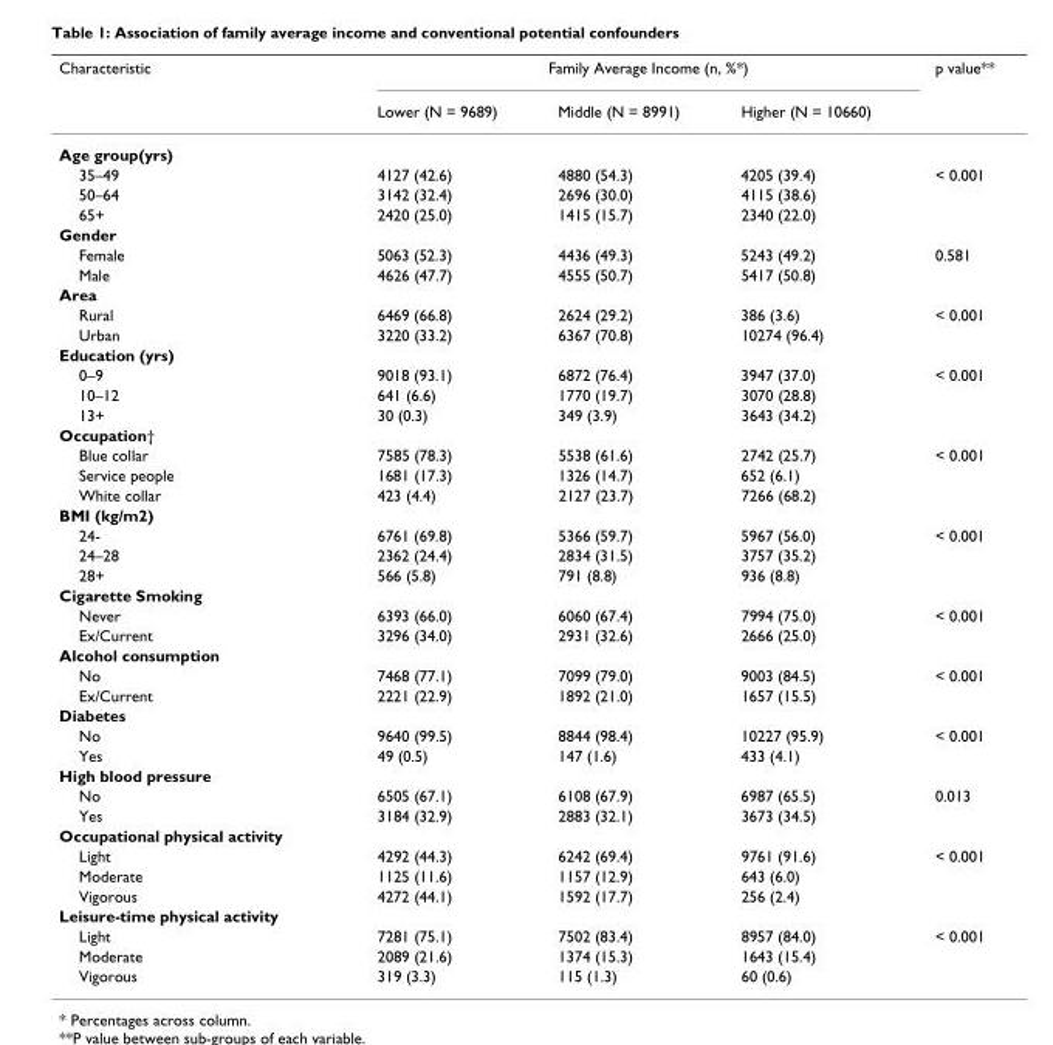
<table><thead><tr><td rowspan="2">Characteristic</td><td colspan="3">Family Average Income (n, %*)</td><td rowspan="2">p value**</td></tr><tr><td>Lower (N = 9689)</td><td>Middle (N = 8991)</td><td>Higher (N = 10660)</td></tr></thead><tbody><tr><td colspan="5">Age group(yrs)</td></tr><tr><td>35–49</td><td>4127 (42.6)</td><td>4880 (54.3)</td><td>4205 (39.4)</td><td>&lt; 0.001</td></tr><tr><td>50–64</td><td>3142 (32.4)</td><td>2696 (30.0)</td><td>4115 (38.6)</td><td></td></tr><tr><td>65+</td><td>2420 (25.0)</td><td>1415 (15.7)</td><td>2340 (22.0)</td><td></td></tr><tr><td colspan="5">Gender</td></tr><tr><td>Female</td><td>5063 (52.3)</td><td>4436 (49.3)</td><td>5243 (49.2)</td><td>0.581</td></tr><tr><td>Male</td><td>4626 (47.7)</td><td>4555 (50.7)</td><td>5417 (50.8)</td><td></td></tr><tr><td colspan="5">Area</td></tr><tr><td>Rural</td><td>6469 (66.8)</td><td>2624 (29.2)</td><td>386 (3.6)</td><td>&lt; 0.001</td></tr><tr><td>Urban</td><td>3220 (33.2)</td><td>6367 (70.8)</td><td>10274 (96.4)</td><td></td></tr><tr><td colspan="5">Education (yrs)</td></tr><tr><td>0–9</td><td>9018 (93.1)</td><td>6872 (76.4)</td><td>3947 (37.0)</td><td>&lt; 0.001</td></tr><tr><td>10–12</td><td>641 (6.6)</td><td>1770 (19.7)</td><td>3070 (28.8)</td><td></td></tr><tr><td>13+</td><td>30 (0.3)</td><td>349 (3.9)</td><td>3643 (34.2)</td><td></td></tr><tr><td colspan="5">Occupation†</td></tr><tr><td>Blue collar</td><td>7585 (78.3)</td><td>5538 (61.6)</td><td>2742 (25.7)</td><td>&lt; 0.001</td></tr><tr><td>Service people</td><td>1681 (17.3)</td><td>1326 (14.7)</td><td>652 (6.1)</td><td></td></tr><tr><td>White collar</td><td>423 (4.4)</td><td>2127 (23.7)</td><td>7266 (68.2)</td><td></td></tr><tr><td colspan="5">BMI (kg/m2)</td></tr><tr><td>24-</td><td>6761 (69.8)</td><td>5366 (59.7)</td><td>5967 (56.0)</td><td>&lt; 0.001</td></tr><tr><td>24–28</td><td>2362 (24.4)</td><td>2834 (31.5)</td><td>3757 (35.2)</td><td></td></tr><tr><td>28+</td><td>566 (5.8)</td><td>791 (8.8)</td><td>936 (8.8)</td><td></td></tr><tr><td colspan="5">Cigarette Smoking</td></tr><tr><td>Never</td><td>6393 (66.0)</td><td>6060 (67.4)</td><td>7994 (75.0)</td><td>&lt; 0.001</td></tr><tr><td>Ex/Current</td><td>3296 (34.0)</td><td>2931 (32.6)</td><td>2666 (25.0)</td><td></td></tr><tr><td colspan="5">Alcohol consumption</td></tr><tr><td>No</td><td>7468 (77.1)</td><td>7099 (79.0)</td><td>9003 (84.5)</td><td>&lt; 0.001</td></tr><tr><td>Ex/Current</td><td>2221 (22.9)</td><td>1892 (21.0)</td><td>1657 (15.5)</td><td></td></tr><tr><td colspan="5">Diabetes</td></tr><tr><td>No</td><td>9640 (99.5)</td><td>8844 (98.4)</td><td>10227 (95.9)</td><td>&lt; 0.001</td></tr><tr><td>Yes</td><td>49 (0.5)</td><td>147 (1.6)</td><td>433 (4.1)</td><td></td></tr><tr><td colspan="5">High blood pressure</td></tr><tr><td>No</td><td>6505 (67.1)</td><td>6108 (67.9)</td><td>6987 (65.5)</td><td>0.013</td></tr><tr><td>Yes</td><td>3184 (32.9)</td><td>2883 (32.1)</td><td>3673 (34.5)</td><td></td></tr><tr><td colspan="5">Occupational physical activity</td></tr><tr><td>Light</td><td>4292 (44.3)</td><td>6242 (69.4)</td><td>9761 (91.6)</td><td>&lt; 0.001</td></tr><tr><td>Moderate</td><td>1125 (11.6)</td><td>1157 (12.9)</td><td>643 (6.0)</td><td></td></tr><tr><td>Vigorous</td><td>4272 (44.1)</td><td>1592 (17.7)</td><td>256 (2.4)</td><td></td></tr><tr><td colspan="5">Leisure-time physical activity</td></tr><tr><td>Light</td><td>7281 (75.1)</td><td>7502 (83.4)</td><td>8957 (84.0)</td><td>&lt; 0.001</td></tr><tr><td>Moderate</td><td>2089 (21.6)</td><td>1374 (15.3)</td><td>1643 (15.4)</td><td></td></tr><tr><td>Vigorous</td><td>319 (3.3)</td><td>115 (1.3)</td><td>60 (0.6)</td><td></td></tr></tbody></table>